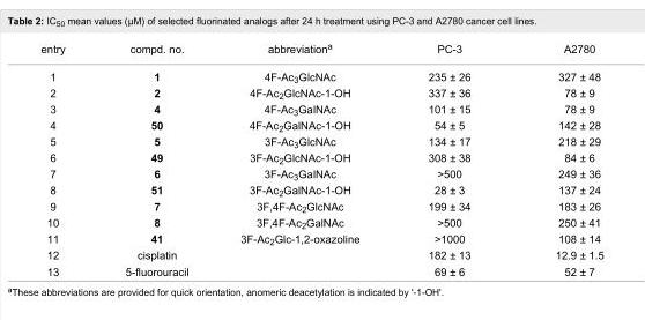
<table><tbody><tr><td>entry</td><td>compd. no.</td><td>abbreviation<sup>a</sup></td><td>PC-3</td><td>A2780</td></tr><tr><td>1</td><td>1</td><td>4F-Ac<sub>3</sub>GlcNAc</td><td>235 ± 26</td><td>327 ± 48</td></tr><tr><td>2</td><td>2</td><td>4F-Ac<sub>2</sub>GlcNAc-1-OH</td><td>337 ± 36</td><td>78 ± 9</td></tr><tr><td>3</td><td>4</td><td>4F-Ac<sub>3</sub>GalNAc</td><td>101 ± 15</td><td>78 ± 9</td></tr><tr><td>4</td><td>50</td><td>4F-Ac<sub>2</sub>GalNAc-1-OH</td><td>54 ± 5</td><td>142 ± 28</td></tr><tr><td>5</td><td>5</td><td>3F-Ac<sub>3</sub>GlcNAc</td><td>134 ± 17</td><td>218 ± 29</td></tr><tr><td>6</td><td>49</td><td>3F-Ac<sub>2</sub>GlcNAc-1-OH</td><td>308 ± 38</td><td>84 ± 6</td></tr><tr><td>7</td><td>6</td><td>3F-Ac<sub>3</sub>GalNAc</td><td>&gt;500</td><td>249 ± 36</td></tr><tr><td>8</td><td>51</td><td>3F-Ac<sub>2</sub>GalNAc-1-OH</td><td>28 ± 3</td><td>137 ± 24</td></tr><tr><td>9</td><td>7</td><td>3F,4F-Ac<sub>2</sub>GlcNAc</td><td>199 ± 34</td><td>183 ± 26</td></tr><tr><td>10</td><td>8</td><td>3F,4F-Ac<sub>2</sub>GalNAc</td><td>&gt;500</td><td>250 ± 41</td></tr><tr><td>11</td><td>41</td><td>3F-Ac<sub>2</sub>Glc-1,2-oxazoline</td><td>&gt;1000</td><td>108 ± 14</td></tr><tr><td>12</td><td>cisplatin</td><td></td><td>182 ± 13</td><td>12.9 ± 1.5</td></tr><tr><td>13</td><td>5-fluorouracil</td><td></td><td>69 ± 6</td><td>52 ± 7</td></tr></tbody></table>